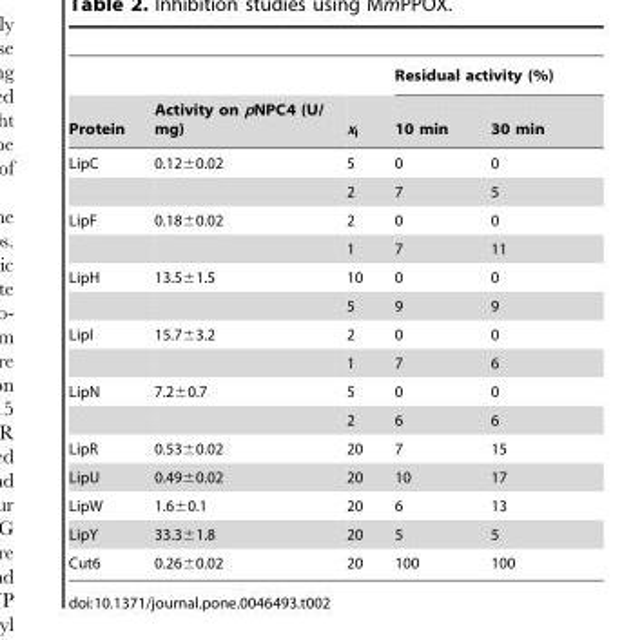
<table><thead><tr><td rowspan="2">Protein</td><td rowspan="2">Activity on pNPC4 (U/ mg)</td><td rowspan="2">x<sub>I</sub></td><td colspan="2">Residual activity (%)</td></tr><tr><td>10 min</td><td>30 min</td></tr></thead><tbody><tr><td rowspan="2">LipC</td><td>0.12±0.02</td><td>5</td><td>0</td><td>0</td></tr><tr><td></td><td>2</td><td>7</td><td>5</td></tr><tr><td rowspan="2">LipF</td><td>0.18±0.02</td><td>2</td><td>0</td><td>0</td></tr><tr><td></td><td>1</td><td>7</td><td>11</td></tr><tr><td rowspan="2">LipH</td><td>13.5±1.5</td><td>10</td><td>0</td><td>0</td></tr><tr><td></td><td>5</td><td>9</td><td>9</td></tr><tr><td rowspan="2">LipI</td><td>15.7±3.2</td><td>2</td><td>0</td><td>0</td></tr><tr><td></td><td>1</td><td>7</td><td>6</td></tr><tr><td rowspan="2">LipN</td><td>7.2±0.7</td><td>5</td><td>0</td><td>0</td></tr><tr><td></td><td>2</td><td>6</td><td>6</td></tr><tr><td>LipR</td><td>0.53±0.02</td><td>20</td><td>7</td><td>15</td></tr><tr><td>LipU</td><td>0.49±0.02</td><td>20</td><td>10</td><td>17</td></tr><tr><td>LipW</td><td>1.6±0.1</td><td>20</td><td>6</td><td>13</td></tr><tr><td>LipY</td><td>33.3±1.8</td><td>20</td><td>5</td><td>5</td></tr><tr><td>Cut6</td><td>0.26±0.02</td><td>20</td><td>100</td><td>100</td></tr></tbody></table>